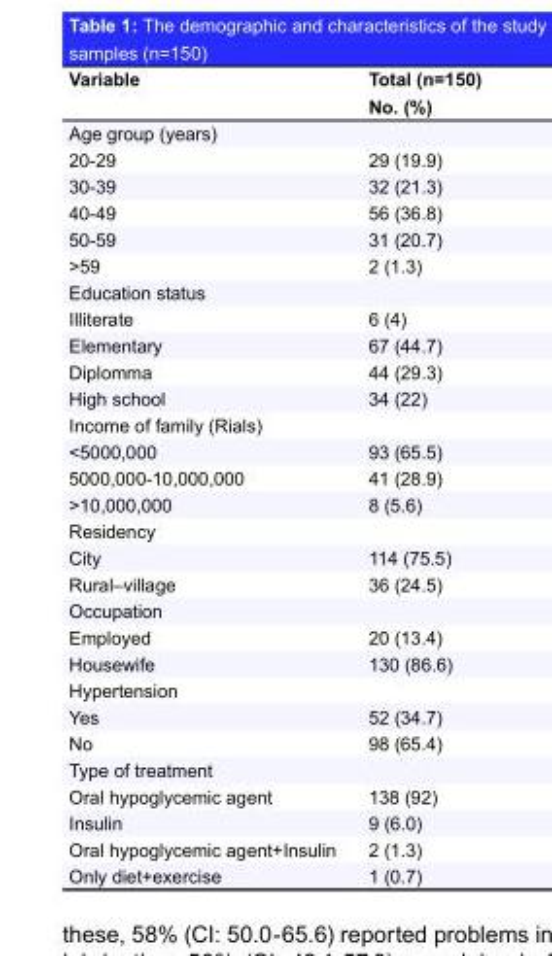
<table><thead><tr><td>Variable</td><td>Total (n=150) No. (%)</td></tr></thead><tbody><tr><td colspan="2">Age group (years)</td></tr><tr><td>20-29</td><td>29 (19.9)</td></tr><tr><td>30-39</td><td>32 (21.3)</td></tr><tr><td>40-49</td><td>56 (36.8)</td></tr><tr><td>50-59</td><td>31 (20.7)</td></tr><tr><td>&gt;59</td><td>2 (1.3)</td></tr><tr><td colspan="2">Education status</td></tr><tr><td>Illiterate</td><td>6 (4)</td></tr><tr><td>Elementary</td><td>67 (44.7)</td></tr><tr><td>Diplomma</td><td>44 (29.3)</td></tr><tr><td>High school</td><td>34 (22)</td></tr><tr><td colspan="2">Income of family (Rials)</td></tr><tr><td>&lt;5000,000</td><td>93 (65.5)</td></tr><tr><td>5000,000-10,000,000</td><td>41 (28.9)</td></tr><tr><td>&gt;10,000,000</td><td>8 (5.6)</td></tr><tr><td colspan="2">Residency</td></tr><tr><td>City</td><td>114 (75.5)</td></tr><tr><td>Rural–village</td><td>36 (24.5)</td></tr><tr><td colspan="2">Occupation</td></tr><tr><td>Employed</td><td>20 (13.4)</td></tr><tr><td>Housewife</td><td>130 (86.6)</td></tr><tr><td colspan="2">Hypertension</td></tr><tr><td>Yes</td><td>52 (34.7)</td></tr><tr><td>No</td><td>98 (65.4)</td></tr><tr><td colspan="2">Type of treatment</td></tr><tr><td>Oral hypoglycemic agent</td><td>138 (92)</td></tr><tr><td>Insulin</td><td>9 (6.0)</td></tr><tr><td>Oral hypoglycemic agent+Insulin</td><td>2 (1.3)</td></tr><tr><td>Only diet+exercise</td><td>1 (0.7)</td></tr></tbody></table>